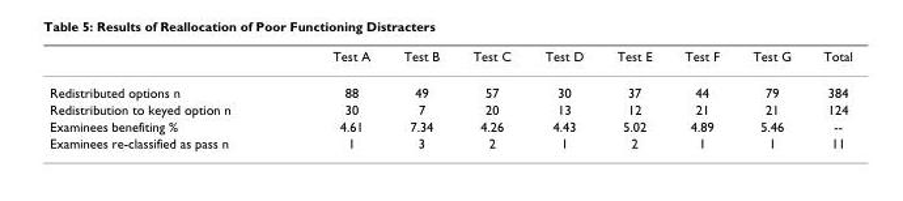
<table><thead><tr><td></td><td>Test A</td><td>Test B</td><td>Test C</td><td>Test D</td><td>Test E</td><td>Test F</td><td>Test G</td><td>Total</td></tr></thead><tbody><tr><td>Redistributed options n</td><td>88</td><td>49</td><td>57</td><td>30</td><td>37</td><td>44</td><td>79</td><td>384</td></tr><tr><td>Redistribution to keyed option n</td><td>30</td><td>7</td><td>20</td><td>13</td><td>12</td><td>21</td><td>21</td><td>124</td></tr><tr><td>Examinees benefiting %</td><td>4.61</td><td>7.34</td><td>4.26</td><td>4.43</td><td>5.02</td><td>4.89</td><td>5.46</td><td>--</td></tr><tr><td>Examinees re-classified as pass n</td><td>1</td><td>3</td><td>2</td><td>1</td><td>2</td><td>1</td><td>1</td><td>11</td></tr></tbody></table>